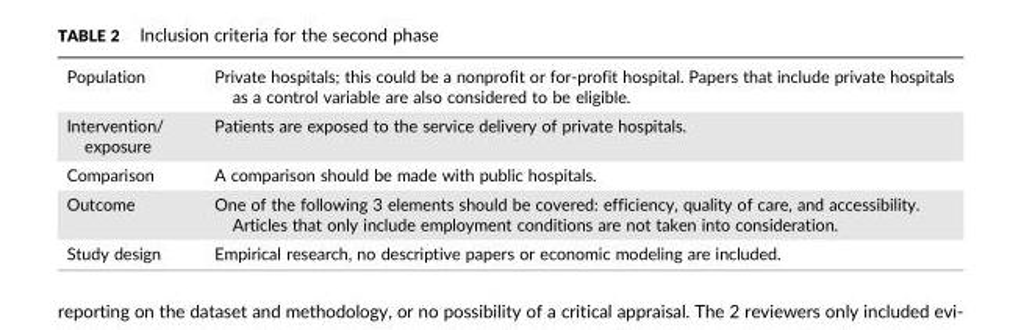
<table><tbody><tr><td>Population</td><td>Private hospitals; this could be a nonprofit or for‐profit hospital. Papers that include private hospitals as a control variable are also considered to be eligible.</td></tr><tr><td>Intervention/ exposure</td><td>Patients are exposed to the service delivery of private hospitals.</td></tr><tr><td>Comparison</td><td>A comparison should be made with public hospitals.</td></tr><tr><td>Outcome</td><td>One of the following 3 elements should be covered: efficiency, quality of care, and accessibility. Articles that only include employment conditions are not taken into consideration.</td></tr><tr><td>Study design</td><td>Empirical research, no descriptive papers or economic modeling are included.</td></tr></tbody></table>